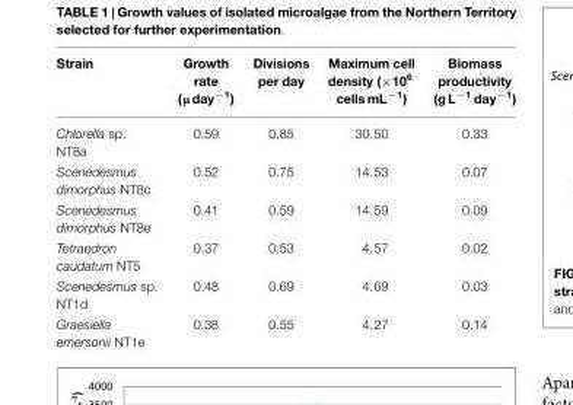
<table><thead><tr><td>Strain</td><td>Growth rate (μ day<sup>−1</sup>)</td><td>Divisions per day</td><td>Maximum cell density (×10<sup>6</sup> cells mL<sup>−1</sup>)</td><td>Biomass productivity (g L<sup>−1</sup> day<sup>−1</sup>)</td></tr></thead><tbody><tr><td>Chlorella sp. NT8a</td><td>0.59</td><td>0.85</td><td>30.50</td><td>0.33</td></tr><tr><td>Scenedesmus dimorphus NT8c</td><td>0.52</td><td>0.75</td><td>14.53</td><td>0.07</td></tr><tr><td>Scenedesmus dimorphus NT8e</td><td>0.41</td><td>0.59</td><td>14.59</td><td>0.09</td></tr><tr><td>Tetraedron caudatum NT5</td><td>0.37</td><td>0.53</td><td>4.57</td><td>0.02</td></tr><tr><td>Scenedesmus sp. NT1d</td><td>0.48</td><td>0.69</td><td>4.69</td><td>0.03</td></tr><tr><td>Graesiella emersonii NT1e</td><td>0.38</td><td>0.55</td><td>4.27</td><td>0.14</td></tr></tbody></table>